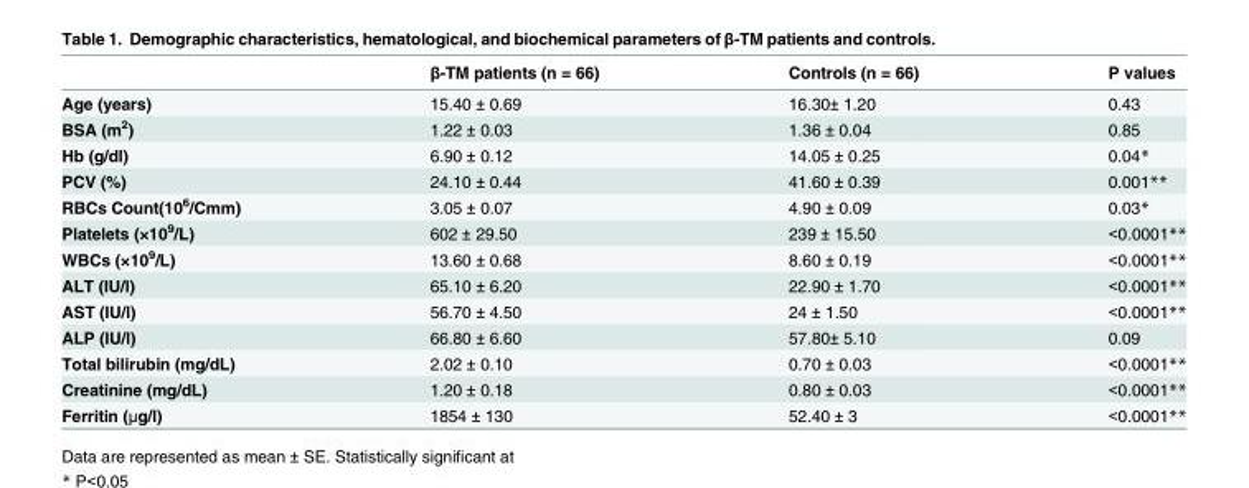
<table><thead><tr><td></td><td>β-TM patients (n = 66)</td><td>Controls (n = 66)</td><td>P values</td></tr></thead><tbody><tr><td>Age (years)</td><td>15.40 ± 0.69</td><td>16.30± 1.20</td><td>0.43</td></tr><tr><td>BSA (m<sup>2</sup>)</td><td>1.22 ± 0.03</td><td>1.36 ± 0.04</td><td>0.85</td></tr><tr><td>Hb (g/dl)</td><td>6.90 ± 0.12</td><td>14.05 ± 0.25</td><td>0.04*</td></tr><tr><td>PCV (%)</td><td>24.10 ± 0.44</td><td>41.60 ± 0.39</td><td>0.001**</td></tr><tr><td>RBCs Count(10<sup>6</sup>/Cmm)</td><td>3.05 ± 0.07</td><td>4.90 ± 0.09</td><td>0.03*</td></tr><tr><td>Platelets (×10<sup>9</sup>/L)</td><td>602 ± 29.50</td><td>239 ± 15.50</td><td>&lt;0.0001**</td></tr><tr><td>WBCs (×10<sup>9</sup>/L)</td><td>13.60 ± 0.68</td><td>8.60 ± 0.19</td><td>&lt;0.0001**</td></tr><tr><td>ALT (IU/l)</td><td>65.10 ± 6.20</td><td>22.90 ± 1.70</td><td>&lt;0.0001**</td></tr><tr><td>AST (IU/l)</td><td>56.70 ± 4.50</td><td>24 ± 1.50</td><td>&lt;0.0001**</td></tr><tr><td>ALP (IU/l)</td><td>66.80 ± 6.60</td><td>57.80± 5.10</td><td>0.09</td></tr><tr><td>Total bilirubin (mg/dL)</td><td>2.02 ± 0.10</td><td>0.70 ± 0.03</td><td>&lt;0.0001**</td></tr><tr><td>Creatinine (mg/dL)</td><td>1.20 ± 0.18</td><td>0.80 ± 0.03</td><td>&lt;0.0001**</td></tr><tr><td>Ferritin (μg/l)</td><td>1854 ± 130</td><td>52.40 ± 3</td><td>&lt;0.0001**</td></tr></tbody></table>